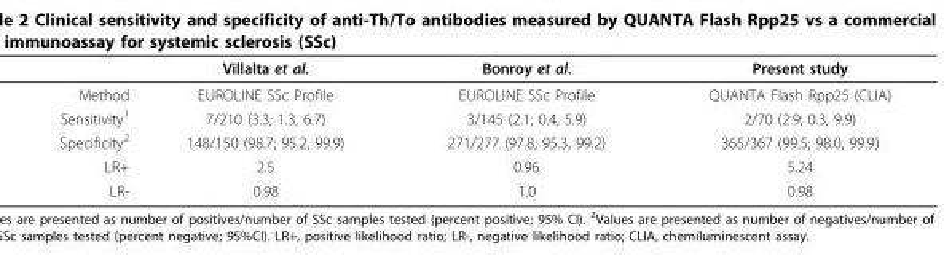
<table><thead><tr><td></td><td>Villalta et al.</td><td>Bonroy et al.</td><td>Present study</td></tr></thead><tbody><tr><td>Method</td><td>EUROLINE SSc Profile</td><td>EUROLINE SSc Profile</td><td>QUANTA Flash Rpp25 (CLIA)</td></tr><tr><td>Sensitivity<sup>1</sup></td><td>7/210 (3.3; 1.3, 6.7)</td><td>3/145 (2.1; 0.4, 5.9)</td><td>2/70 (2.9; 0.3, 9.9)</td></tr><tr><td>Specificity<sup>2</sup></td><td>148/150 (98.7; 95.2, 99.9)</td><td>271/277 (97.8; 95.3, 99.2)</td><td>365/367 (99.5; 98.0, 99.9)</td></tr><tr><td>LR+</td><td>2.5</td><td>0.96</td><td>5.24</td></tr><tr><td>LR-</td><td>0.98</td><td>1.0</td><td>0.98</td></tr></tbody></table>